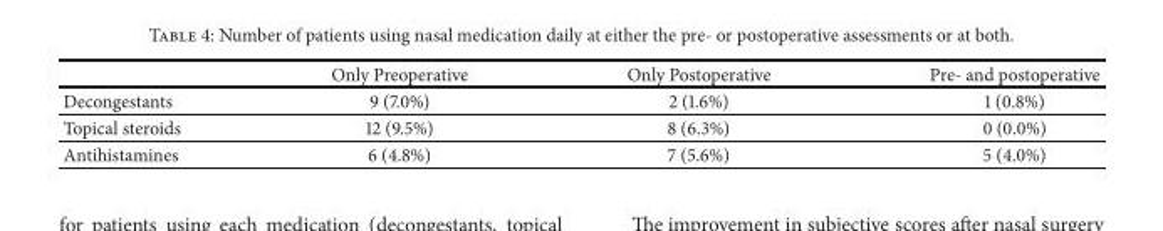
<table><thead><tr><td></td><td>Only Preoperative</td><td>Only Postoperative</td><td>Pre- and postoperative</td></tr></thead><tbody><tr><td>Decongestants</td><td>9 (7.0%)</td><td>2 (1.6%)</td><td>1 (0.8%)</td></tr><tr><td>Topical steroids</td><td>12 (9.5%)</td><td>8 (6.3%)</td><td>0 (0.0%)</td></tr><tr><td>Antihistamines</td><td>6 (4.8%)</td><td>7 (5.6%)</td><td>5 (4.0%)</td></tr></tbody></table>